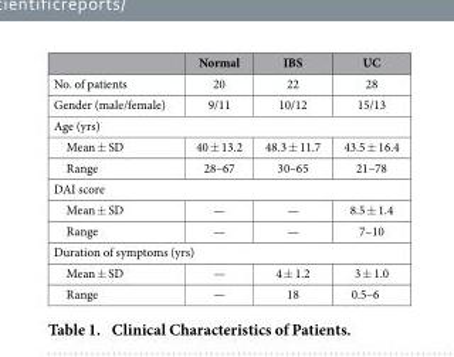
<table><thead><tr><td></td><td>Normal</td><td>IBS</td><td>UC</td></tr></thead><tbody><tr><td>No. of patients</td><td>20</td><td>22</td><td>28</td></tr><tr><td>Gender (male/female)</td><td>9/11</td><td>10/12</td><td>15/13</td></tr><tr><td colspan="4">Age (yrs)</td></tr><tr><td>Mean ± SD</td><td>40 ± 13.2</td><td>48.3 ± 11.7</td><td>43.5 ± 16.4</td></tr><tr><td>Range</td><td>28–67</td><td>30–65</td><td>21–78</td></tr><tr><td colspan="4">DAI score</td></tr><tr><td>Mean ± SD</td><td>—</td><td>—</td><td>8.5 ± 1.4</td></tr><tr><td>Range</td><td>—</td><td>—</td><td>7–10</td></tr><tr><td colspan="4">Duration of symptoms (yrs)</td></tr><tr><td>Mean ± SD</td><td>—</td><td>4 ± 1.2</td><td>3 ± 1.0</td></tr><tr><td>Range</td><td>—</td><td>18</td><td>0.5–6</td></tr></tbody></table>